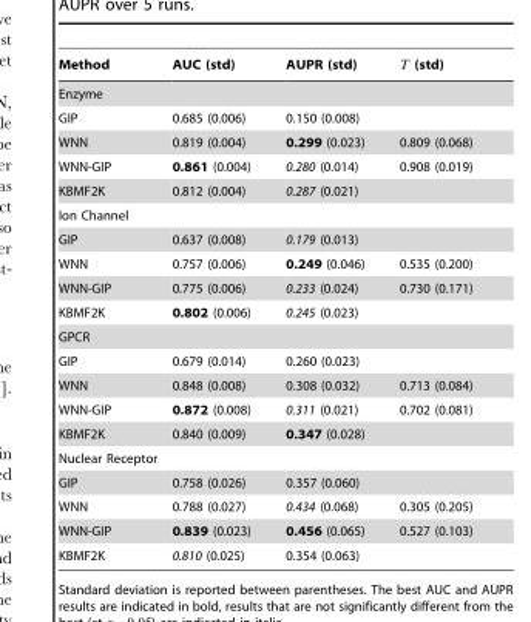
<table><thead><tr><td>Method</td><td>AUC (std)</td><td>AUPR (std)</td><td>T (std)</td></tr></thead><tbody><tr><td colspan="4">Enzyme</td></tr><tr><td>GIP</td><td>0.685 (0.006)</td><td>0.150 (0.008)</td><td></td></tr><tr><td>WNN</td><td>0.819 (0.004)</td><td>0.299 (0.023)</td><td>0.809 (0.068)</td></tr><tr><td>WNN-GIP</td><td>0.861 (0.004)</td><td>0.280 (0.014)</td><td>0.908 (0.019)</td></tr><tr><td>KBMF2K</td><td>0.812 (0.004)</td><td>0.287 (0.021)</td><td></td></tr><tr><td colspan="4">Ion Channel</td></tr><tr><td>GIP</td><td>0.637 (0.008)</td><td>0.179 (0.013)</td><td></td></tr><tr><td>WNN</td><td>0.757 (0.006)</td><td>0.249 (0.046)</td><td>0.535 (0.200)</td></tr><tr><td>WNN-GIP</td><td>0.775 (0.006)</td><td>0.233 (0.024)</td><td>0.730 (0.171)</td></tr><tr><td>KBMF2K</td><td>0.802 (0.006)</td><td>0.245 (0.023)</td><td></td></tr><tr><td colspan="4">GPCR</td></tr><tr><td>GIP</td><td>0.679 (0.014)</td><td>0.260 (0.023)</td><td></td></tr><tr><td>WNN</td><td>0.848 (0.008)</td><td>0.308 (0.032)</td><td>0.713 (0.084)</td></tr><tr><td>WNN-GIP</td><td>0.872 (0.008)</td><td>0.311 (0.021)</td><td>0.702 (0.081)</td></tr><tr><td>KBMF2K</td><td>0.840 (0.009)</td><td>0.347 (0.028)</td><td></td></tr><tr><td colspan="4">Nuclear Receptor</td></tr><tr><td>GIP</td><td>0.758 (0.026)</td><td>0.357 (0.060)</td><td></td></tr><tr><td>WNN</td><td>0.788 (0.027)</td><td>0.434 (0.068)</td><td>0.305 (0.205)</td></tr><tr><td>WNN-GIP</td><td>0.839 (0.023)</td><td>0.456 (0.065)</td><td>0.527 (0.103)</td></tr><tr><td>KBMF2K</td><td>0.810 (0.025)</td><td>0.354 (0.063)</td><td></td></tr></tbody></table>